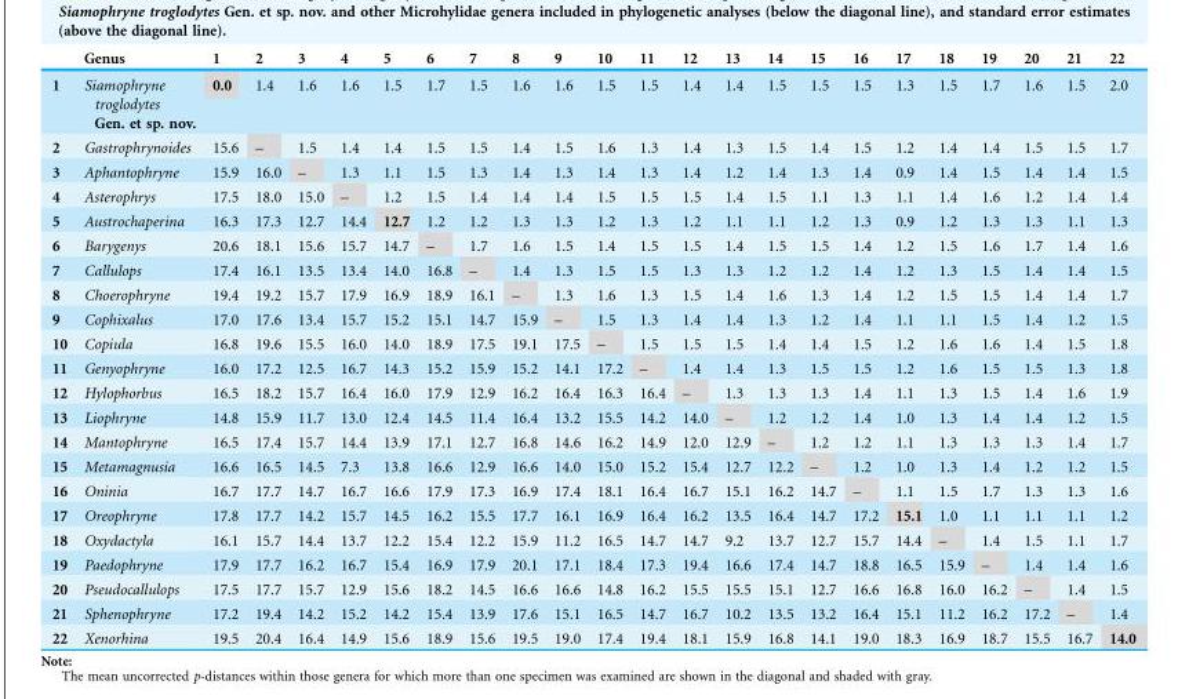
<table><thead><tr><td></td><td>Genus</td><td>1</td><td>2</td><td>3</td><td>4</td><td>5</td><td>6</td><td>7</td><td>8</td><td>9</td><td>10</td><td>11</td><td>12</td><td>13</td><td>14</td><td>15</td><td>16</td><td>17</td><td>18</td><td>19</td><td>20</td><td>21</td><td>22</td></tr></thead><tbody><tr><td>1</td><td>Siamophryne troglodytes Gen. et sp. nov.</td><td>0.0</td><td>1.4</td><td>1.6</td><td>1.6</td><td>1.5</td><td>1.7</td><td>1.5</td><td>1.6</td><td>1.6</td><td>1.5</td><td>1.5</td><td>1.4</td><td>1.4</td><td>1.5</td><td>1.5</td><td>1.5</td><td>1.3</td><td>1.5</td><td>1.7</td><td>1.6</td><td>1.5</td><td>2.0</td></tr><tr><td>2</td><td>Gastrophrynoides</td><td>15.6</td><td>–</td><td>1.5</td><td>1.4</td><td>1.4</td><td>1.5</td><td>1.5</td><td>1.4</td><td>1.5</td><td>1.6</td><td>1.3</td><td>1.4</td><td>1.3</td><td>1.5</td><td>1.4</td><td>1.5</td><td>1.2</td><td>1.4</td><td>1.4</td><td>1.5</td><td>1.5</td><td>1.7</td></tr><tr><td>3</td><td>Aphantophryne</td><td>15.9</td><td>16.0</td><td>–</td><td>1.3</td><td>1.1</td><td>1.5</td><td>1.3</td><td>1.4</td><td>1.3</td><td>1.4</td><td>1.3</td><td>1.4</td><td>1.2</td><td>1.4</td><td>1.3</td><td>1.4</td><td>0.9</td><td>1.4</td><td>1.5</td><td>1.4</td><td>1.4</td><td>1.5</td></tr><tr><td>4</td><td>Asterophrys</td><td>17.5</td><td>18.0</td><td>15.0</td><td>–</td><td>1.2</td><td>1.5</td><td>1.4</td><td>1.4</td><td>1.4</td><td>1.5</td><td>1.5</td><td>1.5</td><td>1.4</td><td>1.5</td><td>1.1</td><td>1.3</td><td>1.1</td><td>1.4</td><td>1.6</td><td>1.2</td><td>1.4</td><td>1.4</td></tr><tr><td>5</td><td>Austrochaperina</td><td>16.3</td><td>17.3</td><td>12.7</td><td>14.4</td><td>12.7</td><td>1.2</td><td>1.2</td><td>1.3</td><td>1.3</td><td>1.2</td><td>1.3</td><td>1.2</td><td>1.1</td><td>1.1</td><td>1.2</td><td>1.3</td><td>0.9</td><td>1.2</td><td>1.3</td><td>1.3</td><td>1.1</td><td>1.3</td></tr><tr><td>6</td><td>Barygenys</td><td>20.6</td><td>18.1</td><td>15.6</td><td>15.7</td><td>14.7</td><td>–</td><td>1.7</td><td>1.6</td><td>1.5</td><td>1.4</td><td>1.5</td><td>1.5</td><td>1.4</td><td>1.5</td><td>1.5</td><td>1.4</td><td>1.2</td><td>1.5</td><td>1.6</td><td>1.7</td><td>1.4</td><td>1.6</td></tr><tr><td>7</td><td>Callulops</td><td>17.4</td><td>16.1</td><td>13.5</td><td>13.4</td><td>14.0</td><td>16.8</td><td>–</td><td>1.4</td><td>1.3</td><td>1.5</td><td>1.5</td><td>1.3</td><td>1.3</td><td>1.2</td><td>1.2</td><td>1.4</td><td>1.2</td><td>1.3</td><td>1.5</td><td>1.4</td><td>1.4</td><td>1.5</td></tr><tr><td>8</td><td>Choerophryne</td><td>19.4</td><td>19.2</td><td>15.7</td><td>17.9</td><td>16.9</td><td>18.9</td><td>16.1</td><td>–</td><td>1.3</td><td>1.6</td><td>1.3</td><td>1.5</td><td>1.4</td><td>1.6</td><td>1.3</td><td>1.4</td><td>1.2</td><td>1.5</td><td>1.5</td><td>1.4</td><td>1.4</td><td>1.7</td></tr><tr><td>9</td><td>Cophixalus</td><td>17.0</td><td>17.6</td><td>13.4</td><td>15.7</td><td>15.2</td><td>15.1</td><td>14.7</td><td>15.9</td><td>–</td><td>1.5</td><td>1.3</td><td>1.4</td><td>1.4</td><td>1.3</td><td>1.2</td><td>1.4</td><td>1.1</td><td>1.1</td><td>1.5</td><td>1.4</td><td>1.2</td><td>1.5</td></tr><tr><td>10</td><td>Copiula</td><td>16.8</td><td>19.6</td><td>15.5</td><td>16.0</td><td>14.0</td><td>18.9</td><td>17.5</td><td>19.1</td><td>17.5</td><td>–</td><td>1.5</td><td>1.5</td><td>1.5</td><td>1.4</td><td>1.4</td><td>1.5</td><td>1.2</td><td>1.6</td><td>1.6</td><td>1.4</td><td>1.5</td><td>1.8</td></tr><tr><td>11</td><td>Genyophryne</td><td>16.0</td><td>17.2</td><td>12.5</td><td>16.7</td><td>14.3</td><td>15.2</td><td>15.9</td><td>15.2</td><td>14.1</td><td>17.2</td><td>–</td><td>1.4</td><td>1.4</td><td>1.3</td><td>1.5</td><td>1.5</td><td>1.2</td><td>1.6</td><td>1.5</td><td>1.5</td><td>1.3</td><td>1.8</td></tr><tr><td>12</td><td>Hylophorbus</td><td>16.5</td><td>18.2</td><td>15.7</td><td>16.4</td><td>16.0</td><td>17.9</td><td>12.9</td><td>16.2</td><td>16.4</td><td>16.3</td><td>16.4</td><td>–</td><td>1.3</td><td>1.3</td><td>1.3</td><td>1.4</td><td>1.1</td><td>1.3</td><td>1.5</td><td>1.4</td><td>1.6</td><td>1.9</td></tr><tr><td>13</td><td>Liophryne</td><td>14.8</td><td>15.9</td><td>11.7</td><td>13.0</td><td>12.4</td><td>14.5</td><td>11.4</td><td>16.4</td><td>13.2</td><td>15.5</td><td>14.2</td><td>14.0</td><td>–</td><td>1.2</td><td>1.2</td><td>1.4</td><td>1.0</td><td>1.3</td><td>1.4</td><td>1.4</td><td>1.2</td><td>1.5</td></tr><tr><td>14</td><td>Mantophryne</td><td>16.5</td><td>17.4</td><td>15.7</td><td>14.4</td><td>13.9</td><td>17.1</td><td>12.7</td><td>16.8</td><td>14.6</td><td>16.2</td><td>14.9</td><td>12.0</td><td>12.9</td><td>–</td><td>1.2</td><td>1.2</td><td>1.1</td><td>1.3</td><td>1.3</td><td>1.3</td><td>1.4</td><td>1.7</td></tr><tr><td>15</td><td>Metamagnusia</td><td>16.6</td><td>16.5</td><td>14.5</td><td>7.3</td><td>13.8</td><td>16.6</td><td>12.9</td><td>16.6</td><td>14.0</td><td>15.0</td><td>15.2</td><td>15.4</td><td>12.7</td><td>12.2</td><td>–</td><td>1.2</td><td>1.0</td><td>1.3</td><td>1.4</td><td>1.2</td><td>1.2</td><td>1.5</td></tr><tr><td>16</td><td>Oninia</td><td>16.7</td><td>17.7</td><td>14.7</td><td>16.7</td><td>16.6</td><td>17.9</td><td>17.3</td><td>16.9</td><td>17.4</td><td>18.1</td><td>16.4</td><td>16.7</td><td>15.1</td><td>16.2</td><td>14.7</td><td>–</td><td>1.1</td><td>1.5</td><td>1.7</td><td>1.3</td><td>1.3</td><td>1.6</td></tr><tr><td>17</td><td>Oreophryne</td><td>17.8</td><td>17.7</td><td>14.2</td><td>15.7</td><td>14.5</td><td>16.2</td><td>15.5</td><td>17.7</td><td>16.1</td><td>16.9</td><td>16.4</td><td>16.2</td><td>13.5</td><td>16.4</td><td>14.7</td><td>17.2</td><td>15.1</td><td>1.0</td><td>1.1</td><td>1.1</td><td>1.1</td><td>1.2</td></tr><tr><td>18</td><td>Oxydactyla</td><td>16.1</td><td>15.7</td><td>14.4</td><td>13.7</td><td>12.2</td><td>15.4</td><td>12.2</td><td>15.9</td><td>11.2</td><td>16.5</td><td>14.7</td><td>14.7</td><td>9.2</td><td>13.7</td><td>12.7</td><td>15.7</td><td>14.4</td><td>–</td><td>1.4</td><td>1.5</td><td>1.1</td><td>1.7</td></tr><tr><td>19</td><td>Paedophryne</td><td>17.9</td><td>17.7</td><td>16.2</td><td>16.7</td><td>15.4</td><td>16.9</td><td>17.9</td><td>20.1</td><td>17.1</td><td>18.4</td><td>17.3</td><td>19.4</td><td>16.6</td><td>17.4</td><td>14.7</td><td>18.8</td><td>16.5</td><td>15.9</td><td>–</td><td>1.4</td><td>1.4</td><td>1.6</td></tr><tr><td>20</td><td>Pseudocallulops</td><td>17.5</td><td>17.7</td><td>15.7</td><td>12.9</td><td>15.6</td><td>18.2</td><td>14.5</td><td>16.6</td><td>16.6</td><td>14.8</td><td>16.2</td><td>15.5</td><td>15.5</td><td>15.1</td><td>12.7</td><td>16.6</td><td>16.8</td><td>16.0</td><td>16.2</td><td>–</td><td>1.4</td><td>1.5</td></tr><tr><td>21</td><td>Sphenophryne</td><td>17.2</td><td>19.4</td><td>14.2</td><td>15.2</td><td>14.2</td><td>15.4</td><td>13.9</td><td>17.6</td><td>15.1</td><td>16.5</td><td>14.7</td><td>16.7</td><td>10.2</td><td>13.5</td><td>13.2</td><td>16.4</td><td>15.1</td><td>11.2</td><td>16.2</td><td>17.2</td><td>–</td><td>1.4</td></tr><tr><td>22</td><td>Xenorhina</td><td>19.5</td><td>20.4</td><td>16.4</td><td>14.9</td><td>15.6</td><td>18.9</td><td>15.6</td><td>19.5</td><td>19.0</td><td>17.4</td><td>19.4</td><td>18.1</td><td>15.9</td><td>16.8</td><td>14.1</td><td>19.0</td><td>18.3</td><td>16.9</td><td>18.7</td><td>15.5</td><td>16.7</td><td>14.0</td></tr></tbody></table>